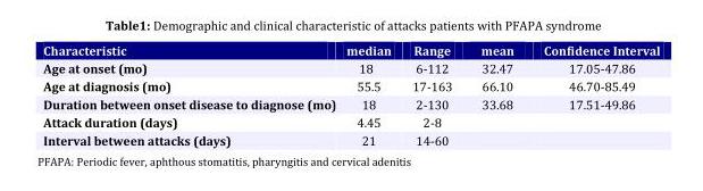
<table><thead><tr><td>Characteristic</td><td>median</td><td>Range</td><td>mean</td><td>Confidence Interval</td></tr></thead><tbody><tr><td>Age at onset (mo)</td><td>18</td><td>6-112</td><td>32.47</td><td>17.05-47.86</td></tr><tr><td>Age at diagnosis (mo)</td><td>55.5</td><td>17-163</td><td>66.10</td><td>46.70-85.49</td></tr><tr><td>Duration between onset disease to diagnose (mo)</td><td>18</td><td>2-130</td><td>33.68</td><td>17.51-49.86</td></tr><tr><td>Attack duration (days)</td><td>4.45</td><td>2-8</td><td></td><td></td></tr><tr><td>Interval between attacks (days)</td><td>21</td><td>14-60</td><td></td><td></td></tr></tbody></table>